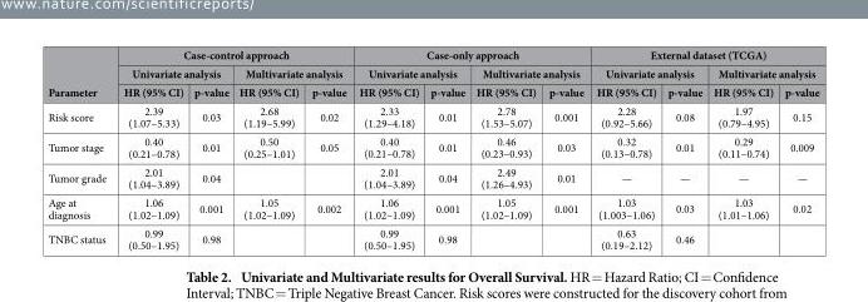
<table><thead><tr><td rowspan="3">Parameter</td><td colspan="4">Case-control approach</td><td colspan="4">Case-only approach</td><td colspan="4">External dataset (TCGA)</td></tr><tr><td colspan="2">Univariate analysis</td><td colspan="2">Multivariate analysis</td><td colspan="2">Univariate analysis</td><td colspan="2">Multivariate analysis</td><td colspan="2">Univariate analysis</td><td colspan="2">Multivariate analysis</td></tr><tr><td>HR (95% CI)</td><td>p-value</td><td>HR (95% CI)</td><td>p-value</td><td>HR (95% CI)</td><td>p-value</td><td>HR (95% CI)</td><td>p-value</td><td>HR (95% CI)</td><td>p-value</td><td>HR (95% CI)</td><td>p-value</td></tr></thead><tbody><tr><td>Risk score</td><td>2.39 (1.07–5.33)</td><td>0.03</td><td>2.68 (1.19–5.99)</td><td>0.02</td><td>2.33 (1.29–4.18)</td><td>0.01</td><td>2.78 (1.53–5.07)</td><td>0.001</td><td>2.28 (0.92–5.66)</td><td>0.08</td><td>1.97 (0.79–4.95)</td><td>0.15</td></tr><tr><td>Tumor stage</td><td>0.40 (0.21–0.78)</td><td>0.01</td><td>0.50 (0.25–1.01)</td><td>0.05</td><td>0.40 (0.21–0.78)</td><td>0.01</td><td>0.46 (0.23–0.93)</td><td>0.03</td><td>0.32 (0.13–0.78)</td><td>0.01</td><td>0.29 (0.11–0.74)</td><td>0.009</td></tr><tr><td>Tumor grade</td><td>2.01 (1.04–3.89)</td><td>0.04</td><td></td><td></td><td>2.01 (1.04–3.89)</td><td>0.04</td><td>2.49 (1.26–4.93)</td><td>0.01</td><td>—</td><td>—</td><td>—</td><td>—</td></tr><tr><td>Age at diagnosis</td><td>1.06 (1.02–1.09)</td><td>0.001</td><td>1.05 (1.02–1.09)</td><td>0.002</td><td>1.06 (1.02–1.09)</td><td>0.001</td><td>1.05 (1.02–1.09)</td><td>0.001</td><td>1.03 (1.003–1.06)</td><td>0.03</td><td>1.03 (1.01–1.06)</td><td>0.02</td></tr><tr><td>TNBC status</td><td>0.99 (0.50–1.95)</td><td>0.98</td><td></td><td></td><td>0.99 (0.50–1.95)</td><td>0.98</td><td></td><td></td><td>0.63 (0.19–2.12)</td><td>0.46</td><td></td><td></td></tr></tbody></table>